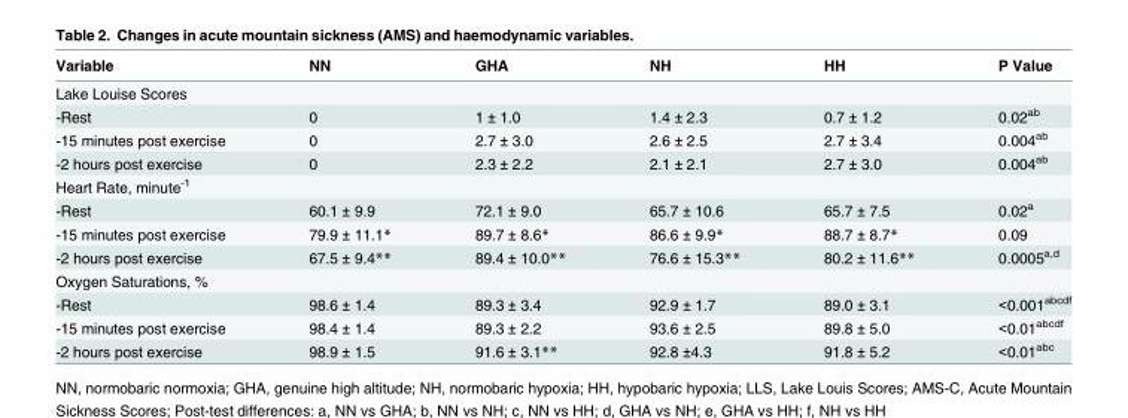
<table><thead><tr><td>Variable</td><td>NN</td><td>GHA</td><td>NH</td><td>HH</td><td>P Value</td></tr></thead><tbody><tr><td colspan="6">Lake Louise Scores</td></tr><tr><td>-Rest</td><td>0</td><td>1 ± 1.0</td><td>1.4 ± 2.3</td><td>0.7 ± 1.2</td><td>0.02<sup>ab</sup></td></tr><tr><td>-15 minutes post exercise</td><td>0</td><td>2.7 ± 3.0</td><td>2.6 ± 2.5</td><td>2.7 ± 3.4</td><td>0.004<sup>ab</sup></td></tr><tr><td>-2 hours post exercise</td><td>0</td><td>2.3 ± 2.2</td><td>2.1 ± 2.1</td><td>2.7 ± 3.0</td><td>0.004<sup>ab</sup></td></tr><tr><td colspan="6">Heart Rate, minute<sup>-1</sup></td></tr><tr><td>-Rest</td><td>60.1 ± 9.9</td><td>72.1 ± 9.0</td><td>65.7 ± 10.6</td><td>65.7 ± 7.5</td><td>0.02<sup>a</sup></td></tr><tr><td>-15 minutes post exercise</td><td>79.9 ± 11.1*</td><td>89.7 ± 8.6*</td><td>86.6 ± 9.9*</td><td>88.7 ± 8.7*</td><td>0.09</td></tr><tr><td>-2 hours post exercise</td><td>67.5 ± 9.4**</td><td>89.4 ± 10.0**</td><td>76.6 ± 15.3**</td><td>80.2 ± 11.6**</td><td>0.0005<sup>a,d</sup></td></tr><tr><td colspan="6">Oxygen Saturations, %</td></tr><tr><td>-Rest</td><td>98.6 ± 1.4</td><td>89.3 ± 3.4</td><td>92.9 ± 1.7</td><td>89.0 ± 3.1</td><td>&lt;0.001<sup>abcdf</sup></td></tr><tr><td>-15 minutes post exercise</td><td>98.4 ± 1.4</td><td>89.3 ± 2.2</td><td>93.6 ± 2.5</td><td>89.8 ± 5.0</td><td>&lt;0.01<sup>abcdf</sup></td></tr><tr><td>-2 hours post exercise</td><td>98.9 ± 1.5</td><td>91.6 ± 3.1**</td><td>92.8 ±4.3</td><td>91.8 ± 5.2</td><td>&lt;0.01<sup>abc</sup></td></tr></tbody></table>